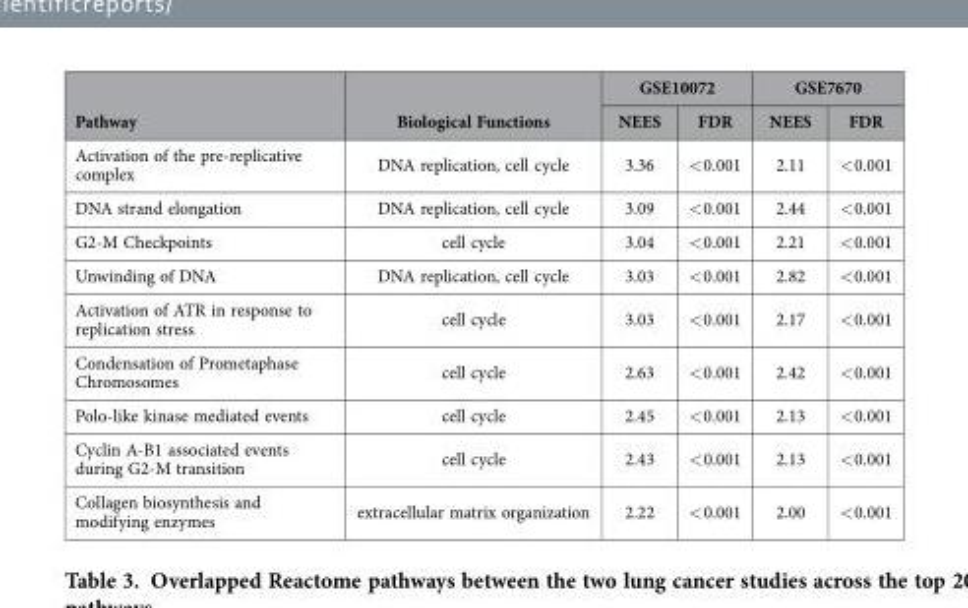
<table><thead><tr><td rowspan="2">Pathway</td><td rowspan="2">Biological Functions</td><td colspan="2">GSE10072</td><td colspan="2">GSE7670</td></tr><tr><td>NEES</td><td>FDR</td><td>NEES</td><td>FDR</td></tr></thead><tbody><tr><td>Activation of the pre-replicative complex</td><td>DNA replication, cell cycle</td><td>3.36</td><td>&lt; 0.001</td><td>2.11</td><td>&lt; 0.001</td></tr><tr><td>DNA strand elongation</td><td>DNA replication, cell cycle</td><td>3.09</td><td>&lt; 0.001</td><td>2.44</td><td>&lt; 0.001</td></tr><tr><td>G2-M Checkpoints</td><td>cell cycle</td><td>3.04</td><td>&lt; 0.001</td><td>2.21</td><td>&lt; 0.001</td></tr><tr><td>Unwinding of DNA</td><td>DNA replication, cell cycle</td><td>3.03</td><td>&lt; 0.001</td><td>2.82</td><td>&lt; 0.001</td></tr><tr><td>Activation of ATR in response to replication stress</td><td>cell cycle</td><td>3.03</td><td>&lt; 0.001</td><td>2.17</td><td>&lt; 0.001</td></tr><tr><td>Condensation of Prometaphase Chromosomes</td><td>cell cycle</td><td>2.63</td><td>&lt; 0.001</td><td>2.42</td><td>&lt; 0.001</td></tr><tr><td>Polo-like kinase mediated events</td><td>cell cycle</td><td>2.45</td><td>&lt; 0.001</td><td>2.13</td><td>&lt; 0.001</td></tr><tr><td>Cyclin A-B1 associated events during G2-M transition</td><td>cell cycle</td><td>2.43</td><td>&lt; 0.001</td><td>2.13</td><td>&lt; 0.001</td></tr><tr><td>Collagen biosynthesis and modifying enzymes</td><td>extracellular matrix organization</td><td>2.22</td><td>&lt; 0.001</td><td>2.00</td><td>&lt; 0.001</td></tr></tbody></table>